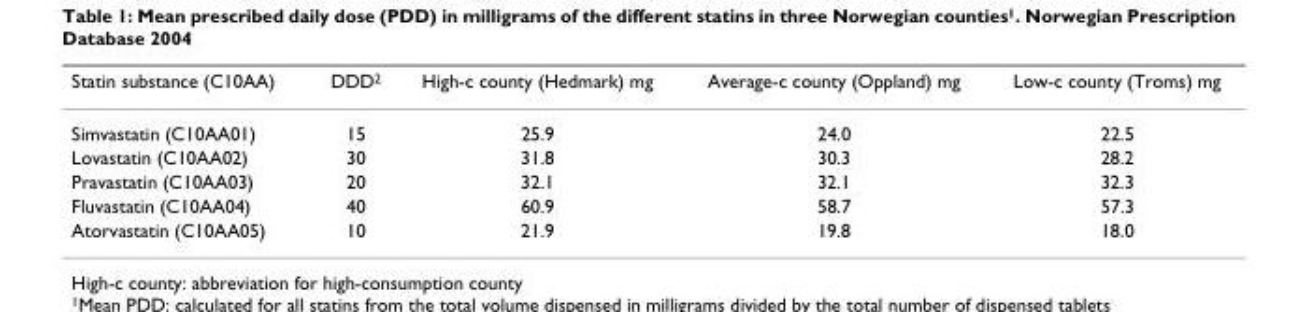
<table><thead><tr><td>Statin substance (C10AA)</td><td>DDD<sup>2</sup></td><td>High-c county (Hedmark) mg</td><td>Average-c county (Oppland) mg</td><td>Low-c county (Troms) mg</td></tr></thead><tbody><tr><td>Simvastatin (C10AA01)</td><td>15</td><td>25.9</td><td>24.0</td><td>22.5</td></tr><tr><td>Lovastatin (C10AA02)</td><td>30</td><td>31.8</td><td>30.3</td><td>28.2</td></tr><tr><td>Pravastatin (C10AA03)</td><td>20</td><td>32.1</td><td>32.1</td><td>32.3</td></tr><tr><td>Fluvastatin (C10AA04)</td><td>40</td><td>60.9</td><td>58.7</td><td>57.3</td></tr><tr><td>Atorvastatin (C10AA05)</td><td>10</td><td>21.9</td><td>19.8</td><td>18.0</td></tr></tbody></table>